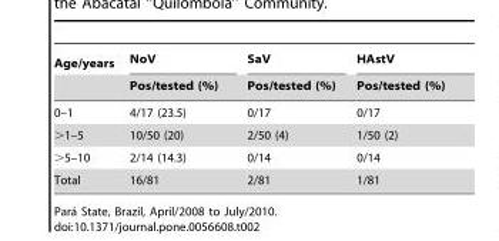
<table><thead><tr><td rowspan="2">Age/years</td><td rowspan="2">NoV Pos/tested (%)</td><td rowspan="2">SaV Pos/tested (%)</td><td rowspan="2">HAstV Pos/tested (%)</td></tr><tr></tr></thead><tbody><tr><td>0–1</td><td>4/17 (23.5)</td><td>0/17</td><td>0/17</td></tr><tr><td>&gt;1–5</td><td>10/50 (20)</td><td>2/50 (4)</td><td>1/50 (2)</td></tr><tr><td>&gt;5–10</td><td>2/14 (14.3)</td><td>0/14</td><td>0/14</td></tr><tr><td>Total</td><td>16/81</td><td>2/81</td><td>1/81</td></tr></tbody></table>